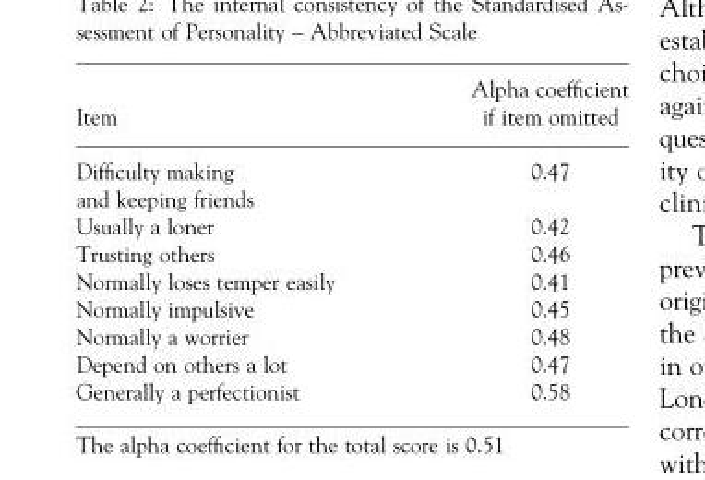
<table><thead><tr><td>Item</td><td>Alpha coefficient if item omitted</td></tr></thead><tbody><tr><td>Difficulty making and keeping friends</td><td>0.47</td></tr><tr><td>Usually a loner</td><td>0.42</td></tr><tr><td>Trusting others</td><td>0.46</td></tr><tr><td>Normally loses temper easily</td><td>0.41</td></tr><tr><td>Normally impulsive</td><td>0.45</td></tr><tr><td>Normally a worrier</td><td>0.48</td></tr><tr><td>Depend on others a lot</td><td>0.47</td></tr><tr><td>Generally a perfectionist</td><td>0.58</td></tr></tbody></table>